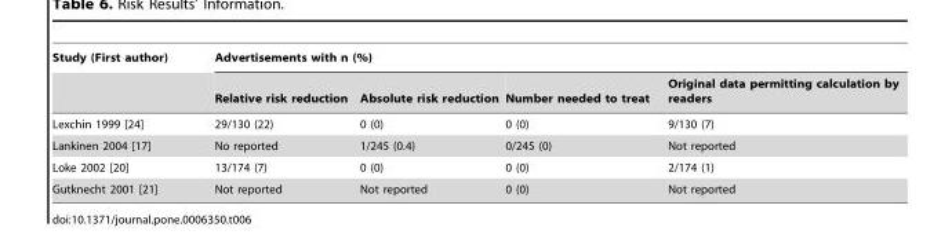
<table><thead><tr><td rowspan="2">Study (First author)</td><td colspan="4">Advertisements with n (%)</td></tr><tr><td>Relative risk reduction</td><td>Absolute risk reduction</td><td>Number needed to treat</td><td>Original data permitting calculation by readers</td></tr></thead><tbody><tr><td>Lexchin 1999 [24]</td><td>29/130 (22)</td><td>0 (0)</td><td>0 (0)</td><td>9/130 (7)</td></tr><tr><td>Lankinen 2004 [17]</td><td>No reported</td><td>1/245 (0.4)</td><td>0/245 (0)</td><td>Not reported</td></tr><tr><td>Loke 2002 [20]</td><td>13/174 (7)</td><td>0 (0)</td><td>0 (0)</td><td>2/174 (1)</td></tr><tr><td>Gutknecht 2001 [21]</td><td>Not reported</td><td>Not reported</td><td>0 (0)</td><td>Not reported</td></tr></tbody></table>